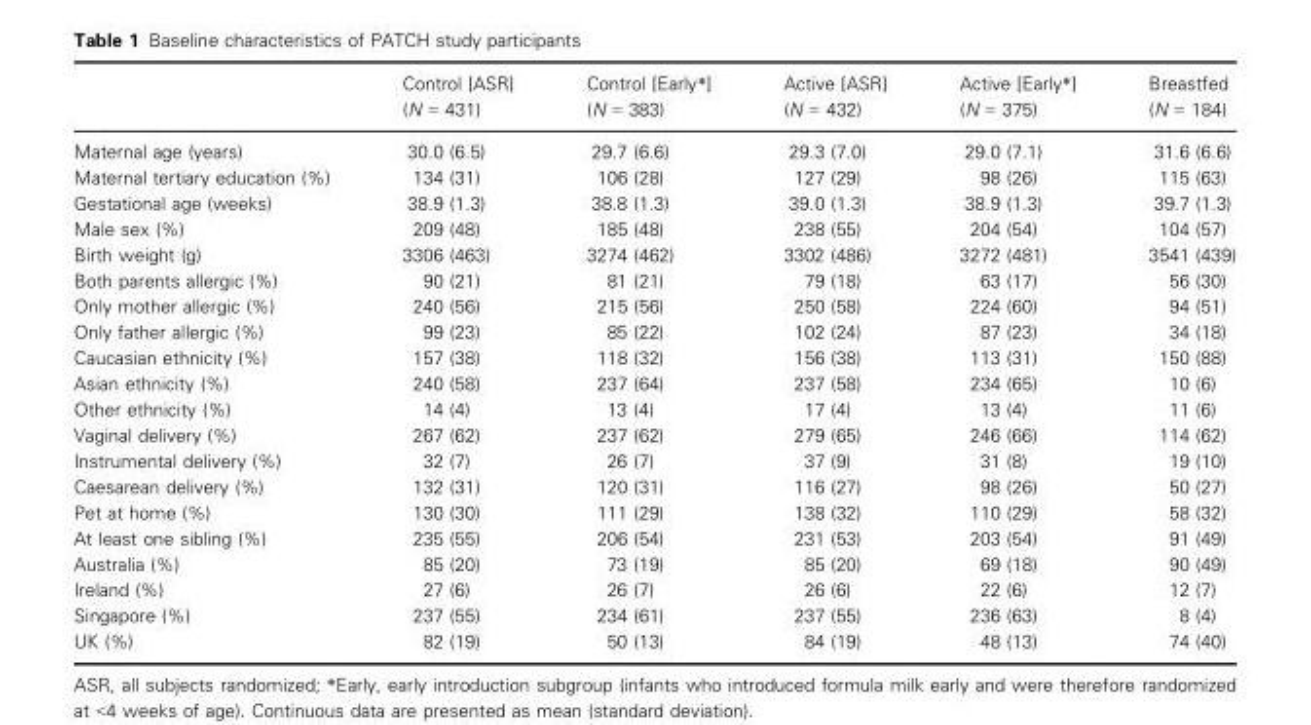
<table><thead><tr><td></td><td>Control [ASR] (N = 431)</td><td>Control [Early*] (N = 383)</td><td>Active [ASR] (N = 432)</td><td>Active [Early*] (N = 375)</td><td>Breastfed (N = 184)</td></tr></thead><tbody><tr><td>Maternal age (years)</td><td>30.0 (6.5)</td><td>29.7 (6.6)</td><td>29.3 (7.0)</td><td>29.0 (7.1)</td><td>31.6 (6.6)</td></tr><tr><td>Maternal tertiary education (%)</td><td>134 (31)</td><td>106 (28)</td><td>127 (29)</td><td>98 (26)</td><td>115 (63)</td></tr><tr><td>Gestational age (weeks)</td><td>38.9 (1.3)</td><td>38.8 (1.3)</td><td>39.0 (1.3)</td><td>38.9 (1.3)</td><td>39.7 (1.3)</td></tr><tr><td>Male sex (%)</td><td>209 (48)</td><td>185 (48)</td><td>238 (55)</td><td>204 (54)</td><td>104 (57)</td></tr><tr><td>Birth weight (g)</td><td>3306 (463)</td><td>3274 (462)</td><td>3302 (486)</td><td>3272 (481)</td><td>3541 (439)</td></tr><tr><td>Both parents allergic (%)</td><td>90 (21)</td><td>81 (21)</td><td>79 (18)</td><td>63 (17)</td><td>56 (30)</td></tr><tr><td>Only mother allergic (%)</td><td>240 (56)</td><td>215 (56)</td><td>250 (58)</td><td>224 (60)</td><td>94 (51)</td></tr><tr><td>Only father allergic (%)</td><td>99 (23)</td><td>85 (22)</td><td>102 (24)</td><td>87 (23)</td><td>34 (18)</td></tr><tr><td>Caucasian ethnicity (%)</td><td>157 (38)</td><td>118 (32)</td><td>156 (38)</td><td>113 (31)</td><td>150 (88)</td></tr><tr><td>Asian ethnicity (%)</td><td>240 (58)</td><td>237 (64)</td><td>237 (58)</td><td>234 (65)</td><td>10 (6)</td></tr><tr><td>Other ethnicity (%)</td><td>14 (4)</td><td>13 (4)</td><td>17 (4)</td><td>13 (4)</td><td>11 (6)</td></tr><tr><td>Vaginal delivery (%)</td><td>267 (62)</td><td>237 (62)</td><td>279 (65)</td><td>246 (66)</td><td>114 (62)</td></tr><tr><td>Instrumental delivery (%)</td><td>32 (7)</td><td>26 (7)</td><td>37 (9)</td><td>31 (8)</td><td>19 (10)</td></tr><tr><td>Caesarean delivery (%)</td><td>132 (31)</td><td>120 (31)</td><td>116 (27)</td><td>98 (26)</td><td>50 (27)</td></tr><tr><td>Pet at home (%)</td><td>130 (30)</td><td>111 (29)</td><td>138 (32)</td><td>110 (29)</td><td>58 (32)</td></tr><tr><td>At least one sibling (%)</td><td>235 (55)</td><td>206 (54)</td><td>231 (53)</td><td>203 (54)</td><td>91 (49)</td></tr><tr><td>Australia (%)</td><td>85 (20)</td><td>73 (19)</td><td>85 (20)</td><td>69 (18)</td><td>90 (49)</td></tr><tr><td>Ireland (%)</td><td>27 (6)</td><td>26 (7)</td><td>26 (6)</td><td>22 (6)</td><td>12 (7)</td></tr><tr><td>Singapore (%)</td><td>237 (55)</td><td>234 (61)</td><td>237 (55)</td><td>236 (63)</td><td>8 (4)</td></tr><tr><td>UK (%)</td><td>82 (19)</td><td>50 (13)</td><td>84 (19)</td><td>48 (13)</td><td>74 (40)</td></tr></tbody></table>